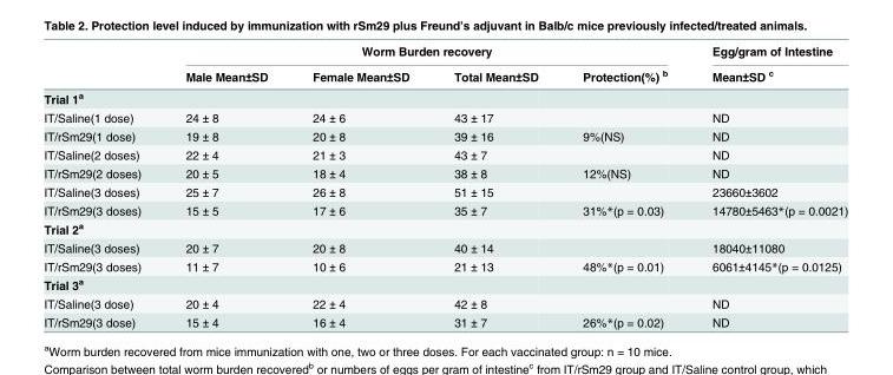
<table><thead><tr><td rowspan="2"></td><td colspan="4">Worm Burden recovery</td><td rowspan="2">Egg/gram of Intestine Mean±SD <sup>c</sup></td></tr><tr><td>Male Mean±SD</td><td>Female Mean±SD</td><td>Total Mean±SD</td><td>Protection(%) <sup>b</sup></td></tr></thead><tbody><tr><td colspan="6">Trial 1<sup>a</sup></td></tr><tr><td>IT/Saline(1 dose)</td><td>24 ± 8</td><td>24 ± 6</td><td>43 ± 17</td><td></td><td>ND</td></tr><tr><td>IT/rSm29(1 dose)</td><td>19 ± 8</td><td>20 ± 8</td><td>39 ± 16</td><td>9%(NS)</td><td>ND</td></tr><tr><td>IT/Saline(2 doses)</td><td>22 ± 4</td><td>21 ± 3</td><td>43 ± 7</td><td></td><td>ND</td></tr><tr><td>IT/rSm29(2 doses)</td><td>20 ± 5</td><td>18 ± 4</td><td>38 ± 8</td><td>12%(NS)</td><td>ND</td></tr><tr><td>IT/Saline(3 doses)</td><td>25 ± 7</td><td>26 ± 8</td><td>51 ± 15</td><td></td><td>23660±3602</td></tr><tr><td>IT/rSm29(3 doses)</td><td>15 ± 5</td><td>17 ± 6</td><td>35 ± 7</td><td>31%*(p = 0.03)</td><td>14780±5463*(p = 0.0021)</td></tr><tr><td colspan="6">Trial 2<sup>a</sup></td></tr><tr><td>IT/Saline(3 doses)</td><td>20 ± 7</td><td>20 ± 8</td><td>40 ± 14</td><td></td><td>18040±11080</td></tr><tr><td>IT/rSm29(3 doses)</td><td>11 ± 7</td><td>10 ± 6</td><td>21 ± 13</td><td>48%*(p = 0.01)</td><td>6061±4145*(p = 0.0125)</td></tr><tr><td colspan="6">Trial 3<sup>a</sup></td></tr><tr><td>IT/Saline(3 dose)</td><td>20 ± 4</td><td>22 ± 4</td><td>42 ± 8</td><td></td><td>ND</td></tr><tr><td>IT/rSm29(3 dose)</td><td>15 ± 4</td><td>16 ± 4</td><td>31 ± 7</td><td>26%*(p = 0.02)</td><td>ND</td></tr></tbody></table>